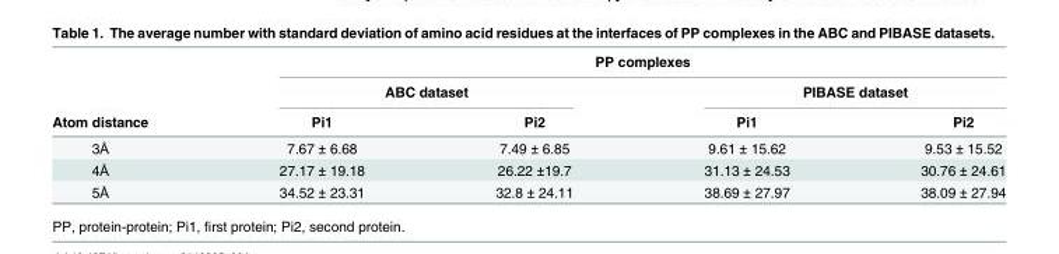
<table><thead><tr><td rowspan="3">Atom distance</td><td colspan="4">PP complexes</td></tr><tr><td colspan="2">ABC dataset</td><td colspan="2">PIBASE dataset</td></tr><tr><td>Pi1</td><td>Pi2</td><td>Pi1</td><td>Pi2</td></tr></thead><tbody><tr><td>3Å</td><td>7.67 ± 6.68</td><td>7.49 ± 6.85</td><td>9.61 ± 15.62</td><td>9.53 ± 15.52</td></tr><tr><td>4Å</td><td>27.17 ± 19.18</td><td>26.22 ±19.7</td><td>31.13 ± 24.53</td><td>30.76 ± 24.61</td></tr><tr><td>5Å</td><td>34.52 ± 23.31</td><td>32.8 ± 24.11</td><td>38.69 ± 27.97</td><td>38.09 ± 27.94</td></tr></tbody></table>